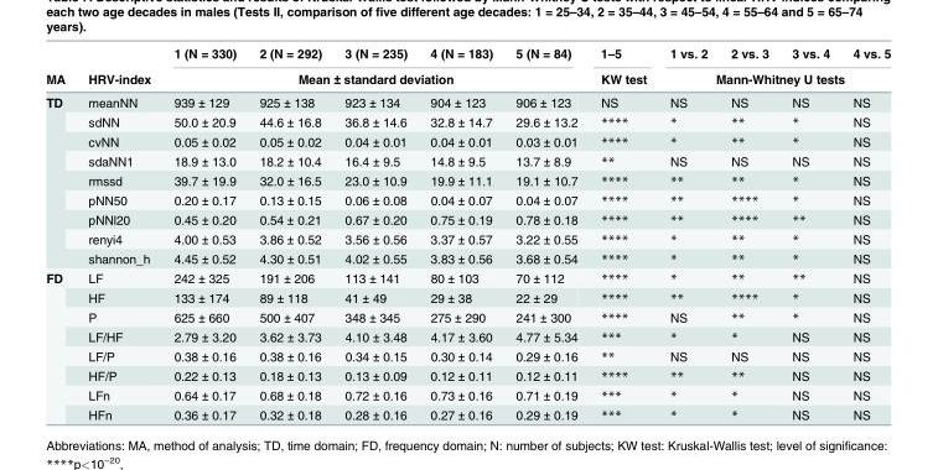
<table><thead><tr><td rowspan="2">MA</td><td rowspan="2">HRV-index</td><td>1 (N = 330)</td><td>2 (N = 292)</td><td>3 (N = 235)</td><td>4 (N = 183)</td><td>5 (N = 84)</td><td rowspan="2">1–5 KW test</td><td>1 vs. 2</td><td>2 vs. 3</td><td>3 vs. 4</td><td>4 vs. 5</td></tr><tr><td colspan="5">Mean ± standard deviation</td><td colspan="4">Mann-Whitney U tests</td></tr></thead><tbody><tr><td rowspan="9">TD</td><td>meanNN</td><td>939 ± 129</td><td>925 ± 138</td><td>923 ± 134</td><td>904 ± 123</td><td>906 ± 123</td><td>NS</td><td>NS</td><td>NS</td><td>NS</td><td>NS</td></tr><tr><td>sdNN</td><td>50.0 ± 20.9</td><td>44.6 ± 16.8</td><td>36.8 ± 14.6</td><td>32.8 ± 14.7</td><td>29.6 ± 13.2</td><td>****</td><td>*</td><td>**</td><td>*</td><td>NS</td></tr><tr><td>cvNN</td><td>0.05 ± 0.02</td><td>0.05 ± 0.02</td><td>0.04 ± 0.01</td><td>0.04 ± 0.01</td><td>0.03 ± 0.01</td><td>****</td><td>*</td><td>**</td><td>*</td><td>NS</td></tr><tr><td>sdaNN1</td><td>18.9 ± 13.0</td><td>18.2 ± 10.4</td><td>16.4 ± 9.5</td><td>14.8 ± 9.5</td><td>13.7 ± 8.9</td><td>**</td><td>NS</td><td>NS</td><td>NS</td><td>NS</td></tr><tr><td>rmssd</td><td>39.7 ± 19.9</td><td>32.0 ± 16.5</td><td>23.0 ± 10.9</td><td>19.9 ± 11.1</td><td>19.1 ± 10.7</td><td>****</td><td>**</td><td>**</td><td>*</td><td>NS</td></tr><tr><td>pNN50</td><td>0.20 ± 0.17</td><td>0.13 ± 0.15</td><td>0.06 ± 0.08</td><td>0.04 ± 0.07</td><td>0.04 ± 0.07</td><td>****</td><td>**</td><td>****</td><td>*</td><td>NS</td></tr><tr><td>pNNl20</td><td>0.45 ± 0.20</td><td>0.54 ± 0.21</td><td>0.67 ± 0.20</td><td>0.75 ± 0.19</td><td>0.78 ± 0.18</td><td>****</td><td>**</td><td>****</td><td>**</td><td>NS</td></tr><tr><td>renyi4</td><td>4.00 ± 0.53</td><td>3.86 ± 0.52</td><td>3.56 ± 0.56</td><td>3.37 ± 0.57</td><td>3.22 ± 0.55</td><td>****</td><td>*</td><td>**</td><td>*</td><td>NS</td></tr><tr><td>shannon_h</td><td>4.45 ± 0.52</td><td>4.30 ± 0.51</td><td>4.02 ± 0.55</td><td>3.83 ± 0.56</td><td>3.68 ± 0.54</td><td>****</td><td>*</td><td>**</td><td>*</td><td>NS</td></tr><tr><td rowspan="8">FD</td><td>LF</td><td>242 ± 325</td><td>191 ± 206</td><td>113 ± 141</td><td>80 ± 103</td><td>70 ± 112</td><td>****</td><td>*</td><td>**</td><td>**</td><td>NS</td></tr><tr><td>HF</td><td>133 ± 174</td><td>89 ± 118</td><td>41 ± 49</td><td>29 ± 38</td><td>22 ± 29</td><td>****</td><td>**</td><td>****</td><td>*</td><td>NS</td></tr><tr><td>P</td><td>625 ± 660</td><td>500 ± 407</td><td>348 ± 345</td><td>275 ± 290</td><td>241 ± 300</td><td>****</td><td>NS</td><td>**</td><td>*</td><td>NS</td></tr><tr><td>LF/HF</td><td>2.79 ± 3.20</td><td>3.62 ± 3.73</td><td>4.10 ± 3.48</td><td>4.17 ± 3.60</td><td>4.77 ± 5.34</td><td>***</td><td>*</td><td>*</td><td>NS</td><td>NS</td></tr><tr><td>LF/P</td><td>0.38 ± 0.16</td><td>0.38 ± 0.16</td><td>0.34 ± 0.15</td><td>0.30 ± 0.14</td><td>0.29 ± 0.16</td><td>**</td><td>NS</td><td>NS</td><td>NS</td><td>NS</td></tr><tr><td>HF/P</td><td>0.22 ± 0.13</td><td>0.18 ± 0.13</td><td>0.13 ± 0.09</td><td>0.12 ± 0.11</td><td>0.12 ± 0.11</td><td>****</td><td>**</td><td>**</td><td>NS</td><td>NS</td></tr><tr><td>LFn</td><td>0.64 ± 0.17</td><td>0.68 ± 0.18</td><td>0.72 ± 0.16</td><td>0.73 ± 0.16</td><td>0.71 ± 0.19</td><td>***</td><td>*</td><td>*</td><td>NS</td><td>NS</td></tr><tr><td>HFn</td><td>0.36 ± 0.17</td><td>0.32 ± 0.18</td><td>0.28 ± 0.16</td><td>0.27 ± 0.16</td><td>0.29 ± 0.19</td><td>***</td><td>*</td><td>*</td><td>NS</td><td>NS</td></tr></tbody></table>